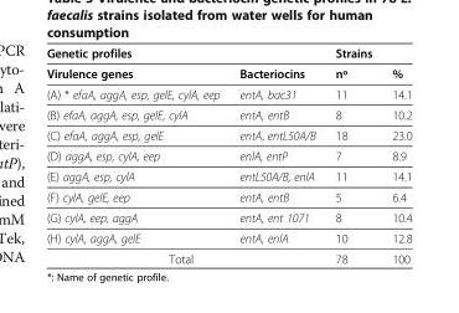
<table><thead><tr><td>Genetic profiles</td><td></td><td>Strains</td><td></td></tr></thead><tbody><tr><td>Virulence genes</td><td>Bacteriocins</td><td>nº</td><td>%</td></tr><tr><td>(A) * efaA, aggA, esp, gelE, cylA, eep</td><td>entA, bac31</td><td>11</td><td>14.1</td></tr><tr><td>(B) efaA, aggA, esp, gelE, cylA</td><td>entA, entB</td><td>8</td><td>10.2</td></tr><tr><td>(C) efaA, aggA, esp, gelE</td><td>entA, entL50A/B</td><td>18</td><td>23.0</td></tr><tr><td>(D) aggA, esp, cylA, eep</td><td>enlA, entP</td><td>7</td><td>8.9</td></tr><tr><td>(E) aggA, esp, cylA</td><td>entL50A/B, enlA</td><td>11</td><td>14.1</td></tr><tr><td>(F) cylA, gelE, eep</td><td>entA, entB</td><td>5</td><td>6.4</td></tr><tr><td>(G) cylA, eep, aggA</td><td>entA, ent 1071</td><td>8</td><td>10.4</td></tr><tr><td>(H) cylA, aggA, gelE</td><td>entA, enlA</td><td>10</td><td>12.8</td></tr><tr><td colspan="2">Total</td><td>78</td><td>100</td></tr></tbody></table>